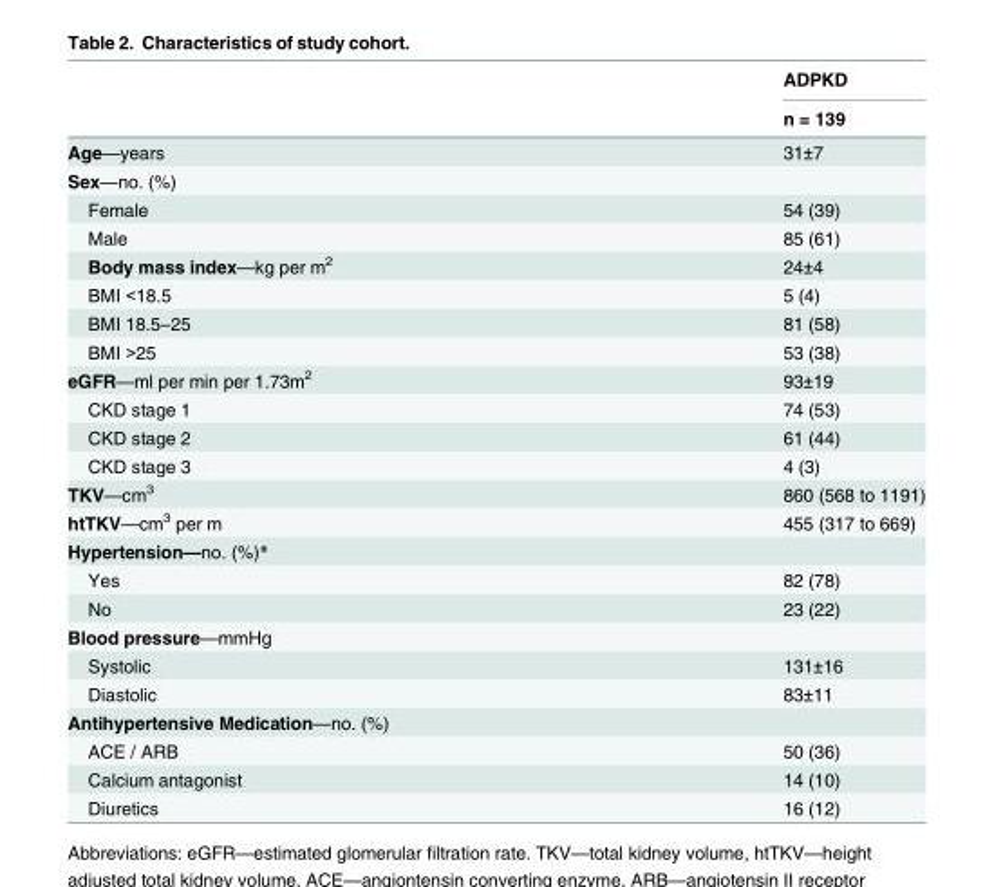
<table><thead><tr><td rowspan="2"></td><td rowspan="2">ADPKD n = 139</td></tr><tr></tr></thead><tbody><tr><td>Age—years</td><td>31±7</td></tr><tr><td colspan="2">Sex—no. (%)</td></tr><tr><td>Female</td><td>54 (39)</td></tr><tr><td>Male</td><td>85 (61)</td></tr><tr><td>Body mass index—kg per m<sup>2</sup></td><td>24±4</td></tr><tr><td>BMI &lt;18.5</td><td>5 (4)</td></tr><tr><td>BMI 18.5–25</td><td>81 (58)</td></tr><tr><td>BMI &gt;25</td><td>53 (38)</td></tr><tr><td>eGFR—ml per min per 1.73m<sup>2</sup></td><td>93±19</td></tr><tr><td>CKD stage 1</td><td>74 (53)</td></tr><tr><td>CKD stage 2</td><td>61 (44)</td></tr><tr><td>CKD stage 3</td><td>4 (3)</td></tr><tr><td>TKV—cm<sup>3</sup></td><td>860 (568 to 1191)</td></tr><tr><td>htTKV—cm<sup>3</sup> per m</td><td>455 (317 to 669)</td></tr><tr><td colspan="2">Hypertension—no. (%)*</td></tr><tr><td>Yes</td><td>82 (78)</td></tr><tr><td>No</td><td>23 (22)</td></tr><tr><td colspan="2">Blood pressure—mmHg</td></tr><tr><td>Systolic</td><td>131±16</td></tr><tr><td>Diastolic</td><td>83±11</td></tr><tr><td colspan="2">Antihypertensive Medication—no. (%)</td></tr><tr><td>ACE / ARB</td><td>50 (36)</td></tr><tr><td>Calcium antagonist</td><td>14 (10)</td></tr><tr><td>Diuretics</td><td>16 (12)</td></tr></tbody></table>